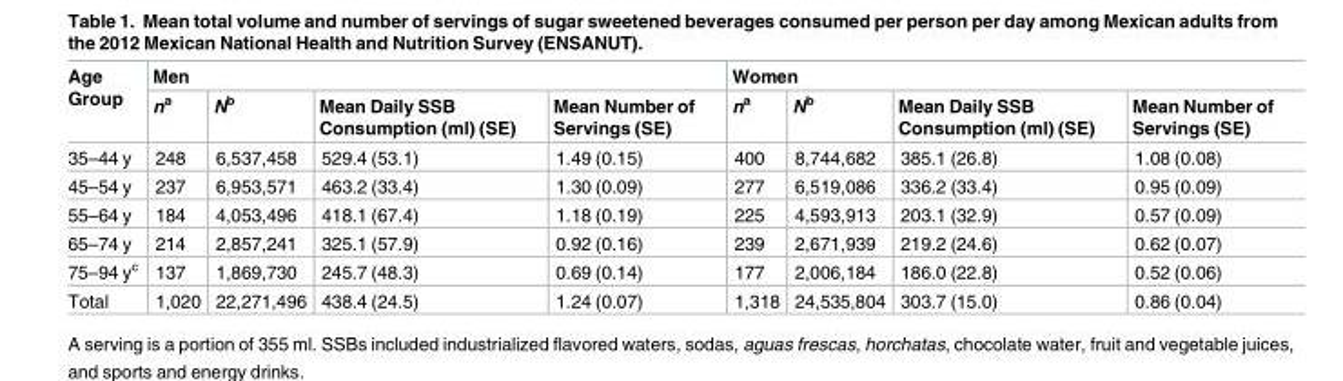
<table><thead><tr><td rowspan="2">Age Group</td><td colspan="4">Men</td><td colspan="4">Women</td></tr><tr><td>n<sup>a</sup></td><td>N<sup>b</sup></td><td>Mean Daily SSB Consumption (ml) (SE)</td><td>Mean Number of Servings (SE)</td><td>n<sup>a</sup></td><td>N<sup>b</sup></td><td>Mean Daily SSB Consumption (ml) (SE)</td><td>Mean Number of Servings (SE)</td></tr></thead><tbody><tr><td>35–44 y</td><td>248</td><td>6,537,458</td><td>529.4 (53.1)</td><td>1.49 (0.15)</td><td>400</td><td>8,744,682</td><td>385.1 (26.8)</td><td>1.08 (0.08)</td></tr><tr><td>45–54 y</td><td>237</td><td>6,953,571</td><td>463.2 (33.4)</td><td>1.30 (0.09)</td><td>277</td><td>6,519,086</td><td>336.2 (33.4)</td><td>0.95 (0.09)</td></tr><tr><td>55–64 y</td><td>184</td><td>4,053,496</td><td>418.1 (67.4)</td><td>1.18 (0.19)</td><td>225</td><td>4,593,913</td><td>203.1 (32.9)</td><td>0.57 (0.09)</td></tr><tr><td>65–74 y</td><td>214</td><td>2,857,241</td><td>325.1 (57.9)</td><td>0.92 (0.16)</td><td>239</td><td>2,671,939</td><td>219.2 (24.6)</td><td>0.62 (0.07)</td></tr><tr><td>75–94 y<sup>c</sup></td><td>137</td><td>1,869,730</td><td>245.7 (48.3)</td><td>0.69 (0.14)</td><td>177</td><td>2,006,184</td><td>186.0 (22.8)</td><td>0.52 (0.06)</td></tr><tr><td>Total</td><td>1,020</td><td>22,271,496</td><td>438.4 (24.5)</td><td>1.24 (0.07)</td><td>1,318</td><td>24,535,804</td><td>303.7 (15.0)</td><td>0.86 (0.04)</td></tr></tbody></table>